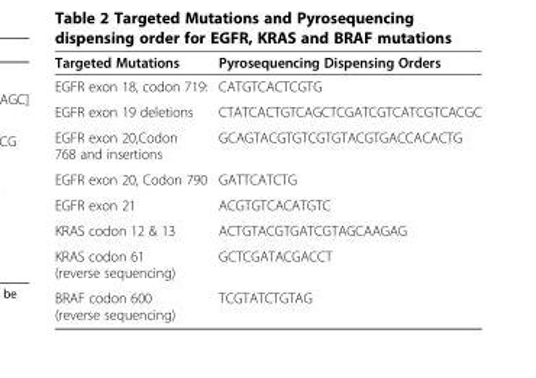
<table><thead><tr><td>Targeted Mutations</td><td>Pyrosequencing Dispensing Orders</td></tr></thead><tbody><tr><td>EGFR exon 18, codon 719:</td><td>CATGTCACTCGTG</td></tr><tr><td>EGFR exon 19 deletions</td><td>CTATCACTGTCAGCTCGATCGTCATCGTCACGC</td></tr><tr><td>EGFR exon 20,Codon 768 and insertions</td><td>GCAGTACGTGTCGTGTACGTGACCACACTG</td></tr><tr><td>EGFR exon 20, Codon 790</td><td>GATTCATCTG</td></tr><tr><td>EGFR exon 21</td><td>ACGTGTCACATGTC</td></tr><tr><td>KRAS codon 12 &amp; 13</td><td>ACTGTACGTGATCGTAGCAAGAG</td></tr><tr><td>KRAS codon 61 (reverse sequencing)</td><td>GCTCGATACGACCT</td></tr><tr><td>BRAF codon 600 (reverse sequencing)</td><td>TCGTATCTGTAG</td></tr></tbody></table>